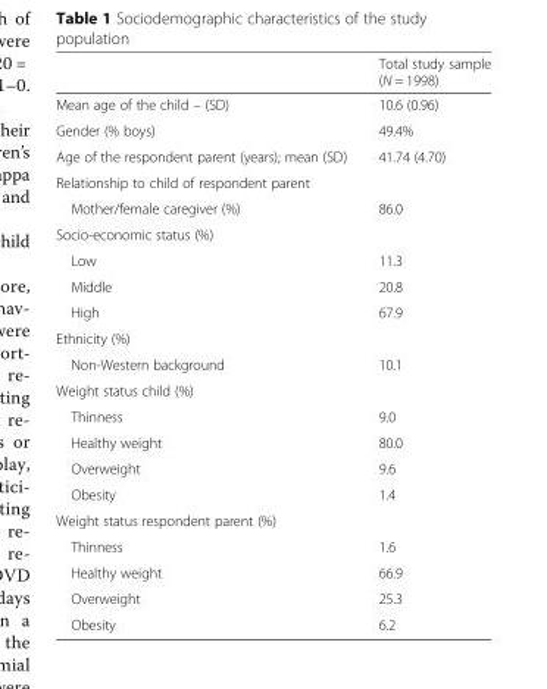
<table><thead><tr><td></td><td>Total study sample (N = 1998)</td></tr></thead><tbody><tr><td>Mean age of the child – (SD)</td><td>10.6 (0.96)</td></tr><tr><td>Gender (% boys)</td><td>49.4%</td></tr><tr><td>Age of the respondent parent (years); mean (SD)</td><td>41.74 (4.70)</td></tr><tr><td colspan="2">Relationship to child of respondent parent</td></tr><tr><td>Mother/female caregiver (%)</td><td>86.0</td></tr><tr><td colspan="2">Socio-economic status (%)</td></tr><tr><td>Low</td><td>11.3</td></tr><tr><td>Middle</td><td>20.8</td></tr><tr><td>High</td><td>67.9</td></tr><tr><td colspan="2">Ethnicity (%)</td></tr><tr><td>Non-Western background</td><td>10.1</td></tr><tr><td colspan="2">Weight status child (%)</td></tr><tr><td>Thinness</td><td>9.0</td></tr><tr><td>Healthy weight</td><td>80.0</td></tr><tr><td>Overweight</td><td>9.6</td></tr><tr><td>Obesity</td><td>1.4</td></tr><tr><td colspan="2">Weight status respondent parent (%)</td></tr><tr><td>Thinness</td><td>1.6</td></tr><tr><td>Healthy weight</td><td>66.9</td></tr><tr><td>Overweight</td><td>25.3</td></tr><tr><td>Obesity</td><td>6.2</td></tr></tbody></table>